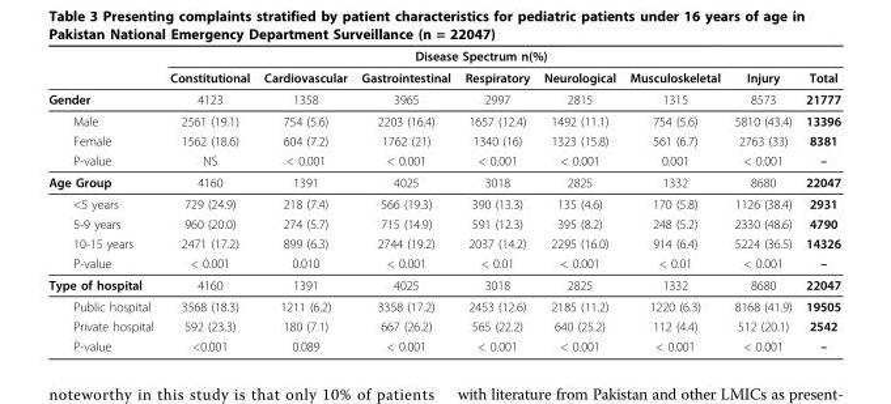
<table><thead><tr><td rowspan="2"></td><td colspan="7">Disease Spectrum n(%)</td><td rowspan="2">Total</td></tr><tr><td>Constitutional</td><td>Cardiovascular</td><td>Gastrointestinal</td><td>Respiratory</td><td>Neurological</td><td>Musculoskeletal</td><td>Injury</td></tr></thead><tbody><tr><td>Gender</td><td>4123</td><td>1358</td><td>3965</td><td>2997</td><td>2815</td><td>1315</td><td>8573</td><td>21777</td></tr><tr><td>Male</td><td>2561 (19.1)</td><td>754 (5.6)</td><td>2203 (16.4)</td><td>1657 (12.4)</td><td>1492 (11.1)</td><td>754 (5.6)</td><td>5810 (43.4)</td><td>13396</td></tr><tr><td>Female</td><td>1562 (18.6)</td><td>604 (7.2)</td><td>1762 (21)</td><td>1340 (16)</td><td>1323 (15.8)</td><td>561 (6.7)</td><td>2763 (33)</td><td>8381</td></tr><tr><td>P-value</td><td>NS</td><td>&lt; 0.001</td><td>&lt; 0.001</td><td>&lt; 0.001</td><td>&lt; 0.001</td><td>0.001</td><td>&lt; 0.001</td><td>–</td></tr><tr><td>Age Group</td><td>4160</td><td>1391</td><td>4025</td><td>3018</td><td>2825</td><td>1332</td><td>8680</td><td>22047</td></tr><tr><td>&lt;5 years</td><td>729 (24.9)</td><td>218 (7.4)</td><td>566 (19.3)</td><td>390 (13.3)</td><td>135 (4.6)</td><td>170 (5.8)</td><td>1126 (38.4)</td><td>2931</td></tr><tr><td>5-9 years</td><td>960 (20.0)</td><td>274 (5.7)</td><td>715 (14.9)</td><td>591 (12.3)</td><td>395 (8.2)</td><td>248 (5.2)</td><td>2330 (48.6)</td><td>4790</td></tr><tr><td>10-15 years</td><td>2471 (17.2)</td><td>899 (6.3)</td><td>2744 (19.2)</td><td>2037 (14.2)</td><td>2295 (16.0)</td><td>914 (6.4)</td><td>5224 (36.5)</td><td>14326</td></tr><tr><td>P-value</td><td>&lt; 0.001</td><td>0.010</td><td>&lt; 0.001</td><td>&lt; 0.01</td><td>&lt; 0.001</td><td>&lt; 0.01</td><td>&lt; 0.001</td><td>–</td></tr><tr><td>Type of hospital</td><td>4160</td><td>1391</td><td>4025</td><td>3018</td><td>2825</td><td>1332</td><td>8680</td><td>22047</td></tr><tr><td>Public hospital</td><td>3568 (18.3)</td><td>1211 (6.2)</td><td>3358 (17.2)</td><td>2453 (12.6)</td><td>2185 (11.2)</td><td>1220 (6.3)</td><td>8168 (41.9)</td><td>19505</td></tr><tr><td>Private hospital</td><td>592 (23.3)</td><td>180 (7.1)</td><td>667 (26.2)</td><td>565 (22.2)</td><td>640 (25.2)</td><td>112 (4.4)</td><td>512 (20.1)</td><td>2542</td></tr><tr><td>P-value</td><td>&lt;0.001</td><td>0.089</td><td>&lt; 0.001</td><td>&lt; 0.001</td><td>&lt; 0.001</td><td>&lt; 0.001</td><td>&lt; 0.001</td><td>–</td></tr></tbody></table>